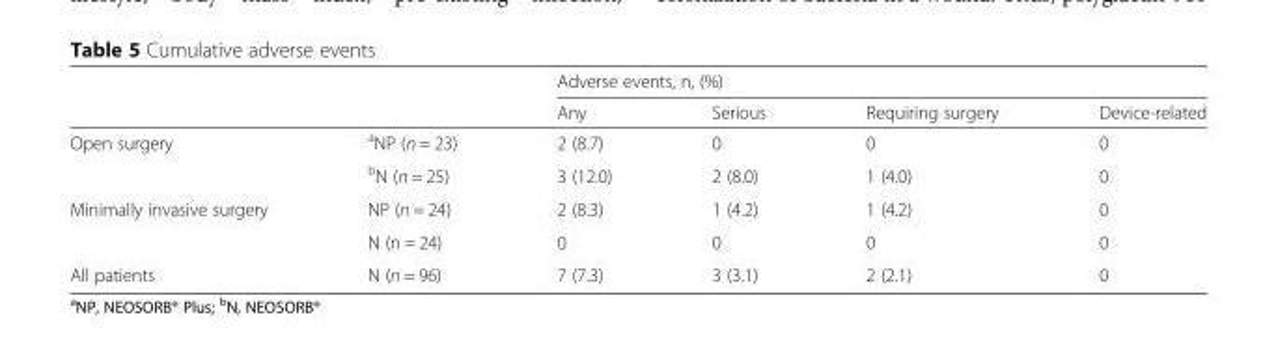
<table><thead><tr><td rowspan="2"></td><td rowspan="2"></td><td colspan="4">Adverse events, n, (%)</td></tr><tr><td>Any</td><td>Serious</td><td>Requiring surgery</td><td>Device-related</td></tr></thead><tbody><tr><td rowspan="2">Open surgery</td><td><sup>a</sup>NP (n = 23)</td><td>2 (8.7)</td><td>0</td><td>0</td><td>0</td></tr><tr><td><sup>b</sup>N (n = 25)</td><td>3 (12.0)</td><td>2 (8.0)</td><td>1 (4.0)</td><td>0</td></tr><tr><td rowspan="2">Minimally invasive surgery</td><td>NP (n = 24)</td><td>2 (8.3)</td><td>1 (4.2)</td><td>1 (4.2)</td><td>0</td></tr><tr><td>N (n = 24)</td><td>0</td><td>0</td><td>0</td><td>0</td></tr><tr><td>All patients</td><td>N (n = 96)</td><td>7 (7.3)</td><td>3 (3.1)</td><td>2 (2.1)</td><td>0</td></tr></tbody></table>